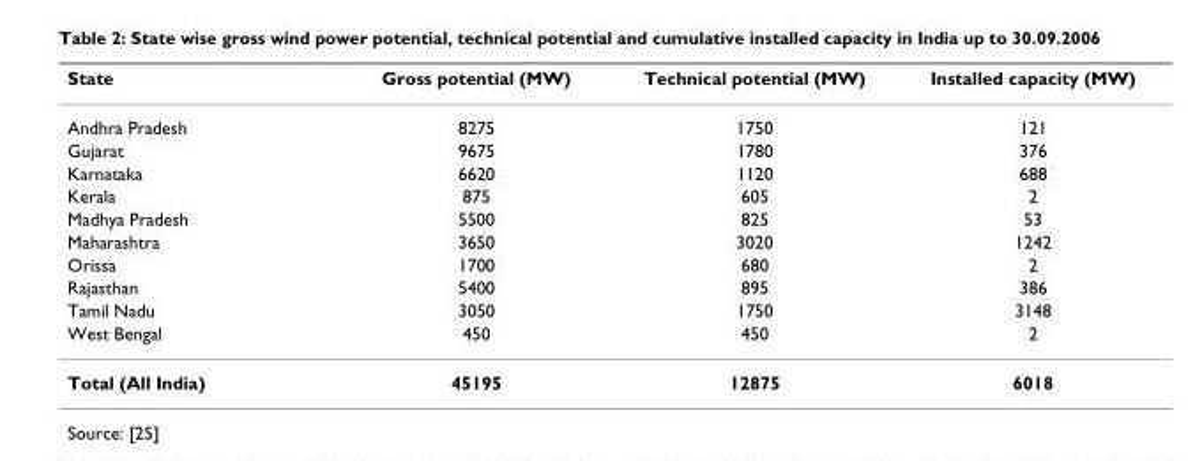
<table><thead><tr><td>State</td><td>Gross potential (MW)</td><td>Technical potential (MW)</td><td>Installed capacity (MW)</td></tr></thead><tbody><tr><td>Andhra Pradesh</td><td>8275</td><td>1750</td><td>121</td></tr><tr><td>Gujarat</td><td>9675</td><td>1780</td><td>376</td></tr><tr><td>Karnataka</td><td>6620</td><td>1120</td><td>688</td></tr><tr><td>Kerala</td><td>875</td><td>605</td><td>2</td></tr><tr><td>Madhya Pradesh</td><td>5500</td><td>825</td><td>53</td></tr><tr><td>Maharashtra</td><td>3650</td><td>3020</td><td>1242</td></tr><tr><td>Orissa</td><td>1700</td><td>680</td><td>2</td></tr><tr><td>Rajasthan</td><td>5400</td><td>895</td><td>386</td></tr><tr><td>Tamil Nadu</td><td>3050</td><td>1750</td><td>3148</td></tr><tr><td>West Bengal</td><td>450</td><td>450</td><td>2</td></tr><tr><td>Total (All India)</td><td>45195</td><td>12875</td><td>6018</td></tr></tbody></table>